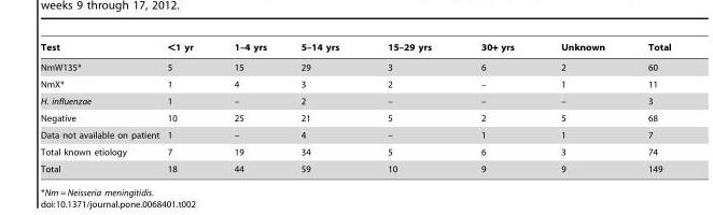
<table><thead><tr><td>Test</td><td>&lt;1 yr</td><td>1–4 yrs</td><td>5–14 yrs</td><td>15–29 yrs</td><td>30+ yrs</td><td>Unknown</td><td>Total</td></tr></thead><tbody><tr><td>NmW135*</td><td>5</td><td>15</td><td>29</td><td>3</td><td>6</td><td>2</td><td>60</td></tr><tr><td>NmX*</td><td>1</td><td>4</td><td>3</td><td>2</td><td>–</td><td>1</td><td>11</td></tr><tr><td>H. influenzae</td><td>1</td><td>–</td><td>2</td><td>–</td><td>–</td><td>–</td><td>3</td></tr><tr><td>Negative</td><td>10</td><td>25</td><td>21</td><td>5</td><td>2</td><td>5</td><td>68</td></tr><tr><td>Data not available on patient</td><td>1</td><td>–</td><td>4</td><td>–</td><td>1</td><td>1</td><td>7</td></tr><tr><td>Total known etiology</td><td>7</td><td>19</td><td>34</td><td>5</td><td>6</td><td>3</td><td>74</td></tr><tr><td>Total</td><td>18</td><td>44</td><td>59</td><td>10</td><td>9</td><td>9</td><td>149</td></tr></tbody></table>